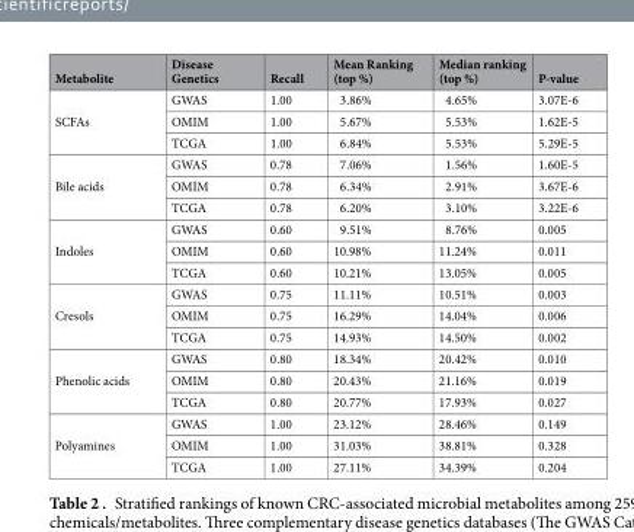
<table><thead><tr><td>Metabolite</td><td>Disease Genetics</td><td>Recall</td><td>Mean Ranking (top %)</td><td>Median ranking (top %)</td><td>P-value</td></tr></thead><tbody><tr><td rowspan="3">SCFAs</td><td>GWAS</td><td>1.00</td><td>3.86%</td><td>4.65%</td><td>3.07E-6</td></tr><tr><td>OMIM</td><td>1.00</td><td>5.67%</td><td>5.53%</td><td>1.62E-5</td></tr><tr><td>TCGA</td><td>1.00</td><td>6.84%</td><td>5.53%</td><td>5.29E-5</td></tr><tr><td rowspan="3">Bile acids</td><td>GWAS</td><td>0.78</td><td>7.06%</td><td>1.56%</td><td>1.60E-5</td></tr><tr><td>OMIM</td><td>0.78</td><td>6.34%</td><td>2.91%</td><td>3.67E-6</td></tr><tr><td>TCGA</td><td>0.78</td><td>6.20%</td><td>3.10%</td><td>3.22E-6</td></tr><tr><td rowspan="3">Indoles</td><td>GWAS</td><td>0.60</td><td>9.51%</td><td>8.76%</td><td>0.005</td></tr><tr><td>OMIM</td><td>0.60</td><td>10.98%</td><td>11.24%</td><td>0.011</td></tr><tr><td>TCGA</td><td>0.60</td><td>10.21%</td><td>13.05%</td><td>0.005</td></tr><tr><td rowspan="3">Cresols</td><td>GWAS</td><td>0.75</td><td>11.11%</td><td>10.51%</td><td>0.003</td></tr><tr><td>OMIM</td><td>0.75</td><td>16.29%</td><td>14.04%</td><td>0.006</td></tr><tr><td>TCGA</td><td>0.75</td><td>14.93%</td><td>14.50%</td><td>0.002</td></tr><tr><td rowspan="3">Phenolic acids</td><td>GWAS</td><td>0.80</td><td>18.34%</td><td>20.42%</td><td>0.010</td></tr><tr><td>OMIM</td><td>0.80</td><td>20.43%</td><td>21.16%</td><td>0.019</td></tr><tr><td>TCGA</td><td>0.80</td><td>20.77%</td><td>17.93%</td><td>0.027</td></tr><tr><td rowspan="3">Polyamines</td><td>GWAS</td><td>1.00</td><td>23.12%</td><td>28.46%</td><td>0.149</td></tr><tr><td>OMIM</td><td>1.00</td><td>31.03%</td><td>38.81%</td><td>0.328</td></tr><tr><td>TCGA</td><td>1.00</td><td>27.11%</td><td>34.39%</td><td>0.204</td></tr></tbody></table>